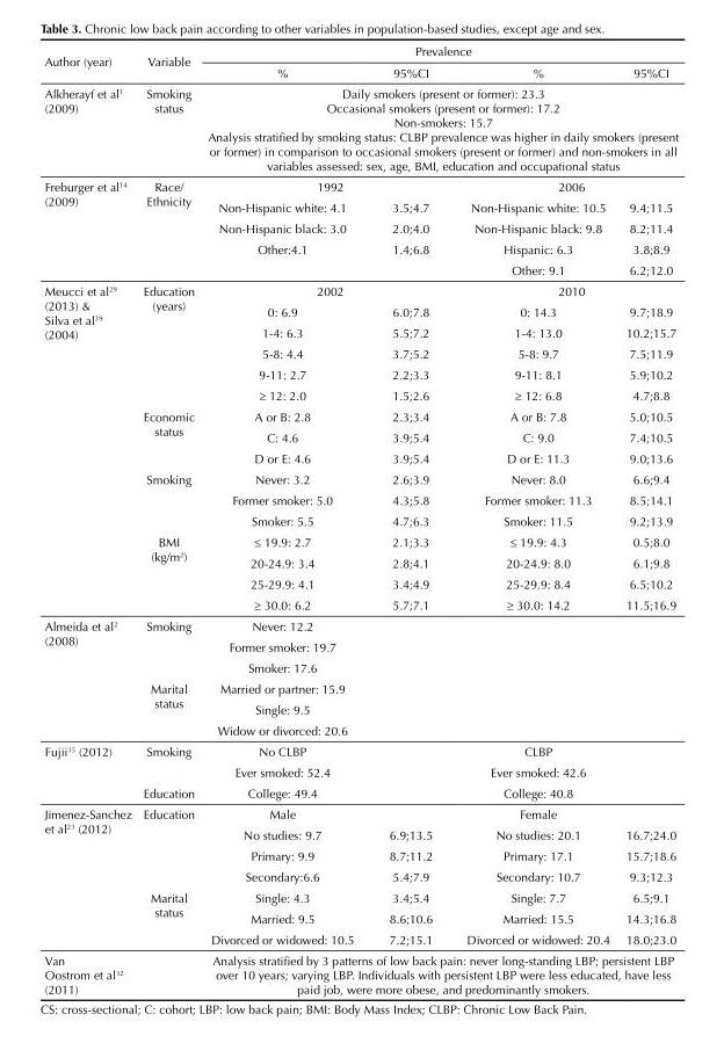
<table><thead><tr><td rowspan="2">Author (year)</td><td rowspan="2">Variable</td><td colspan="4">Prevalence</td></tr><tr><td>%</td><td>95%CI</td><td>%</td><td>95%CI</td></tr></thead><tbody><tr><td>Alkherayf et al<sup>1</sup> (2009)</td><td>Smoking status</td><td colspan="4">Daily smokers (present or former): 23.3 Occasional smokers (present or former): 17.2 Non-smokers: 15.7 Analysis stratified by smoking status: CLBP prevalence was higher in daily smokers (present or former) in comparison to occasional smokers (present or former) and non-smokers in all variables assessed: sex, age, BMI, education and occupational status</td></tr><tr><td rowspan="5">Freburger et al<sup>14</sup> (2009)</td><td rowspan="5">Race/ Ethnicity</td><td colspan="2">1992</td><td colspan="2">2006</td></tr><tr><td>Non-Hispanic white: 4.1</td><td>3.5;4.7</td><td>Non-Hispanic white: 10.5</td><td>9.4;11.5</td></tr><tr><td>Non-Hispanic black: 3.0</td><td>2.0;4.0</td><td>Non-Hispanic black: 9.8</td><td>8.2;11.4</td></tr><tr><td>Other:4.1</td><td>1.4;6.8</td><td>Hispanic: 6.3</td><td>3.8;8.9</td></tr><tr><td></td><td></td><td>Other: 9.1</td><td>6.2;12.0</td></tr><tr><td rowspan="16">Meucci et al<sup>29</sup> (2013) &amp; Silva et al<sup>39</sup> (2004)</td><td rowspan="6">Education (years)</td><td colspan="2">2002</td><td colspan="2">2010</td></tr><tr><td>0: 6.9</td><td>6.0;7.8</td><td>0: 14.3</td><td>9.7;18.9</td></tr><tr><td>1-4: 6.3</td><td>5.5;7.2</td><td>1-4: 13.0</td><td>10.2;15.7</td></tr><tr><td>5-8: 4.4</td><td>3.7;5.2</td><td>5-8: 9.7</td><td>7.5;11.9</td></tr><tr><td>9-11: 2.7</td><td>2.2;3.3</td><td>9-11: 8.1</td><td>5.9;10.2</td></tr><tr><td>≥ 12: 2.0</td><td>1.5;2.6</td><td>≥ 12: 6.8</td><td>4.7;8.8</td></tr><tr><td rowspan="3">Economic status</td><td>A or B: 2.8</td><td>2.3;3.4</td><td>A or B: 7.8</td><td>5.0;10.5</td></tr><tr><td>C: 4.6</td><td>3.9;5.4</td><td>C: 9.0</td><td>7.4;10.5</td></tr><tr><td>D or E: 4.6</td><td>3.9;5.4</td><td>D or E: 11.3</td><td>9.0;13.6</td></tr><tr><td rowspan="3">Smoking</td><td>Never: 3.2</td><td>2.6;3.9</td><td>Never: 8.0</td><td>6.6;9.4</td></tr><tr><td>Former smoker: 5.0</td><td>4.3;5.8</td><td>Former smoker: 11.3</td><td>8.5;14.1</td></tr><tr><td>Smoker: 5.5</td><td>4.7;6.3</td><td>Smoker: 11.5</td><td>9.2;13.9</td></tr><tr><td rowspan="4">BMI (kg/m<sup>2</sup>)</td><td>≤ 19.9: 2.7</td><td>2.1;3.3</td><td>≤ 19.9: 4.3</td><td>0.5;8.0</td></tr><tr><td>20-24.9: 3.4</td><td>2.8;4.1</td><td>20-24.9: 8.0</td><td>6.1;9.8</td></tr><tr><td>25-29.9: 4.1</td><td>3.4;4.9</td><td>25-29.9: 8.4</td><td>6.5;10.2</td></tr><tr><td>≥ 30.0: 6.2</td><td>5.7;7.1</td><td>≥ 30.0: 14.2</td><td>11.5;16.9</td></tr><tr><td rowspan="6">Almeida et al<sup>2</sup> (2008)</td><td rowspan="3">Smoking</td><td>Never: 12.2</td><td></td><td></td><td></td></tr><tr><td>Former smoker: 19.7</td><td></td><td></td><td></td></tr><tr><td>Smoker: 17.6</td><td></td><td></td><td></td></tr><tr><td rowspan="3">Marital status</td><td>Married or partner: 15.9</td><td></td><td></td><td></td></tr><tr><td>Single: 9.5</td><td></td><td></td><td></td></tr><tr><td>Widow or divorced: 20.6</td><td></td><td></td><td></td></tr><tr><td rowspan="3">Fujii<sup>15</sup> (2012)</td><td rowspan="2">Smoking</td><td>No CLBP</td><td></td><td>CLBP</td><td></td></tr><tr><td>Ever smoked: 52.4</td><td></td><td>Ever smoked: 42.6</td><td></td></tr><tr><td>Education</td><td>College: 49.4</td><td></td><td>College: 40.8</td><td></td></tr><tr><td rowspan="7">Jimenez-Sanchez et al<sup>23</sup> (2012)</td><td rowspan="4">Education</td><td>Male</td><td></td><td>Female</td><td></td></tr><tr><td>No studies: 9.7</td><td>6.9;13.5</td><td>No studies: 20.1</td><td>16.7;24.0</td></tr><tr><td>Primary: 9.9</td><td>8.7;11.2</td><td>Primary: 17.1</td><td>15.7;18.6</td></tr><tr><td>Secondary:6.6</td><td>5.4;7.9</td><td>Secondary: 10.7</td><td>9.3;12.3</td></tr><tr><td rowspan="3">Marital status</td><td>Single: 4.3</td><td>3.4;5.4</td><td>Single: 7.7</td><td>6.5;9.1</td></tr><tr><td>Married: 9.5</td><td>8.6;10.6</td><td>Married: 15.5</td><td>14.3;16.8</td></tr><tr><td>Divorced or widowed: 10.5</td><td>7.2;15.1</td><td>Divorced or widowed: 20.4</td><td>18.0;23.0</td></tr><tr><td>Van Oostrom et al32 (2011)</td><td></td><td colspan="4">Analysis stratified by 3 patterns of low back pain: never long-standing LBP; persistent LBP over 10 years; varying LBP. Individuals with persistent LBP were less educated, have less paid job, were more obese, and predominantly smokers.</td></tr></tbody></table>